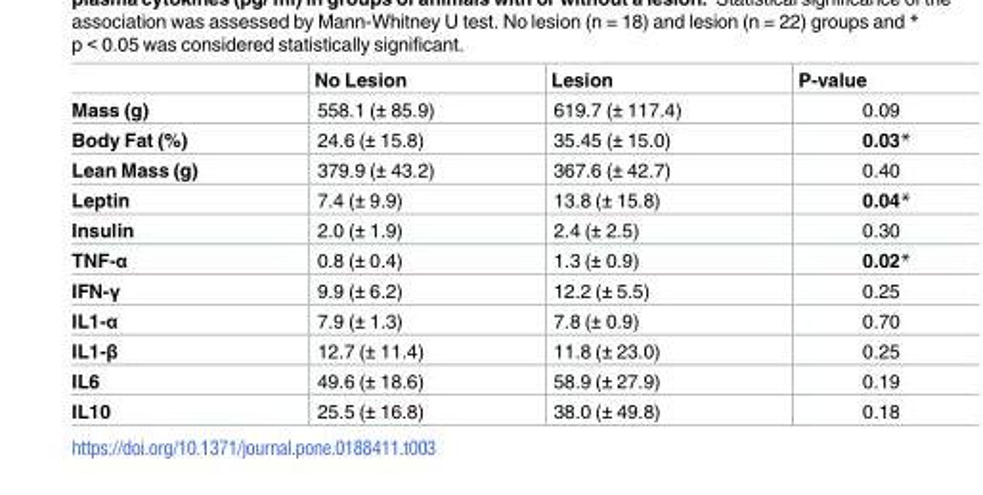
<table><thead><tr><td></td><td>No Lesion</td><td>Lesion</td><td>P-value</td></tr></thead><tbody><tr><td>Mass (g)</td><td>558.1 (± 85.9)</td><td>619.7 (± 117.4)</td><td>0.09</td></tr><tr><td>Body Fat (%)</td><td>24.6 (± 15.8)</td><td>35.45 (± 15.0)</td><td>0.03*</td></tr><tr><td>Lean Mass (g)</td><td>379.9 (± 43.2)</td><td>367.6 (± 42.7)</td><td>0.40</td></tr><tr><td>Leptin</td><td>7.4 (± 9.9)</td><td>13.8 (± 15.8)</td><td>0.04*</td></tr><tr><td>Insulin</td><td>2.0 (± 1.9)</td><td>2.4 (± 2.5)</td><td>0.30</td></tr><tr><td>TNF-α</td><td>0.8 (± 0.4)</td><td>1.3 (± 0.9)</td><td>0.02*</td></tr><tr><td>IFN-γ</td><td>9.9 (± 6.2)</td><td>12.2 (± 5.5)</td><td>0.25</td></tr><tr><td>IL1-α</td><td>7.9 (± 1.3)</td><td>7.8 (± 0.9)</td><td>0.70</td></tr><tr><td>IL1-β</td><td>12.7 (± 11.4)</td><td>11.8 (± 23.0)</td><td>0.25</td></tr><tr><td>IL6</td><td>49.6 (± 18.6)</td><td>58.9 (± 27.9)</td><td>0.19</td></tr><tr><td>IL10</td><td>25.5 (± 16.8)</td><td>38.0 (± 49.8)</td><td>0.18</td></tr></tbody></table>